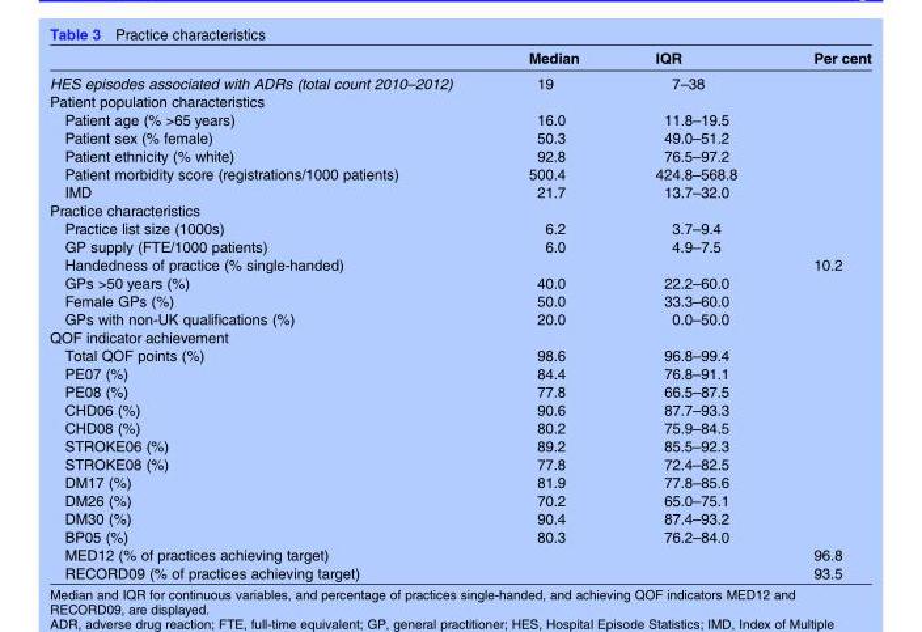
<table><thead><tr><td></td><td>Median</td><td>IQR</td><td>Per cent</td></tr></thead><tbody><tr><td>HES episodes associated with ADRs (total count 2010–2012)</td><td>19</td><td>7–38</td><td></td></tr><tr><td colspan="4">Patient population characteristics</td></tr><tr><td>Patient age (% &gt;65 years)</td><td>16.0</td><td>11.8–19.5</td><td></td></tr><tr><td>Patient sex (% female)</td><td>50.3</td><td>49.0–51.2</td><td></td></tr><tr><td>Patient ethnicity (% white)</td><td>92.8</td><td>76.5–97.2</td><td></td></tr><tr><td>Patient morbidity score (registrations/1000 patients)</td><td>500.4</td><td>424.8–568.8</td><td></td></tr><tr><td>IMD</td><td>21.7</td><td>13.7–32.0</td><td></td></tr><tr><td colspan="4">Practice characteristics</td></tr><tr><td>Practice list size (1000s)</td><td>6.2</td><td>3.7–9.4</td><td></td></tr><tr><td>GP supply (FTE/1000 patients)</td><td>6.0</td><td>4.9–7.5</td><td></td></tr><tr><td>Handedness of practice (% single-handed)</td><td></td><td></td><td>10.2</td></tr><tr><td>GPs &gt;50 years (%)</td><td>40.0</td><td>22.2–60.0</td><td></td></tr><tr><td>Female GPs (%)</td><td>50.0</td><td>33.3–60.0</td><td></td></tr><tr><td>GPs with non-UK qualifications (%)</td><td>20.0</td><td>0.0–50.0</td><td></td></tr><tr><td colspan="4">QOF indicator achievement</td></tr><tr><td>Total QOF points (%)</td><td>98.6</td><td>96.8–99.4</td><td></td></tr><tr><td>PE07 (%)</td><td>84.4</td><td>76.8–91.1</td><td></td></tr><tr><td>PE08 (%)</td><td>77.8</td><td>66.5–87.5</td><td></td></tr><tr><td>CHD06 (%)</td><td>90.6</td><td>87.7–93.3</td><td></td></tr><tr><td>CHD08 (%)</td><td>80.2</td><td>75.9–84.5</td><td></td></tr><tr><td>STROKE06 (%)</td><td>89.2</td><td>85.5–92.3</td><td></td></tr><tr><td>STROKE08 (%)</td><td>77.8</td><td>72.4–82.5</td><td></td></tr><tr><td>DM17 (%)</td><td>81.9</td><td>77.8–85.6</td><td></td></tr><tr><td>DM26 (%)</td><td>70.2</td><td>65.0–75.1</td><td></td></tr><tr><td>DM30 (%)</td><td>90.4</td><td>87.4–93.2</td><td></td></tr><tr><td>BP05 (%)</td><td>80.3</td><td>76.2–84.0</td><td></td></tr><tr><td>MED12 (% of practices achieving target)</td><td></td><td></td><td>96.8</td></tr><tr><td>RECORD09 (% of practices achieving target)</td><td></td><td></td><td>93.5</td></tr></tbody></table>